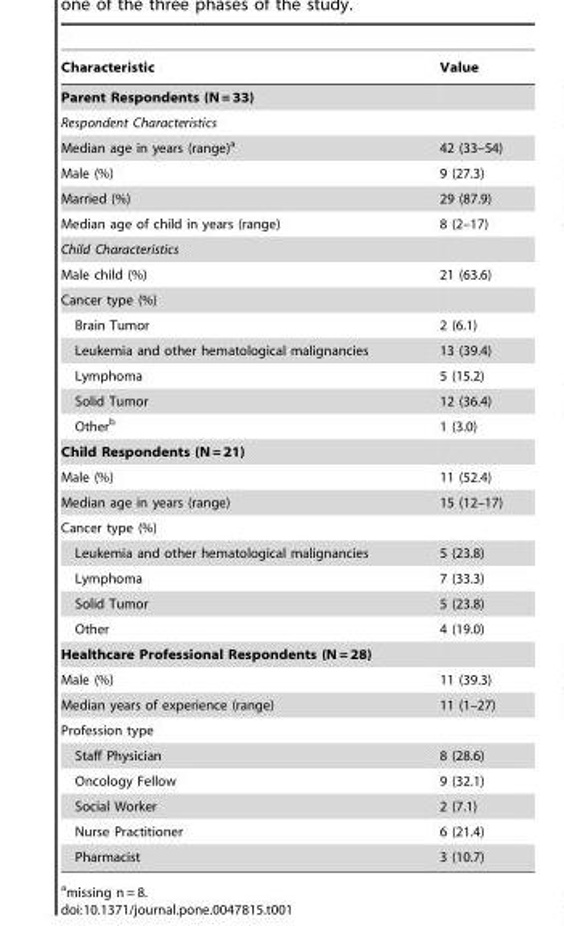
<table><thead><tr><td>Characteristic</td><td>Value</td></tr></thead><tbody><tr><td colspan="2">Parent Respondents (N = 33)</td></tr><tr><td colspan="2">Respondent Characteristics</td></tr><tr><td>Median age in years (range)<sup>a</sup></td><td>42 (33–54)</td></tr><tr><td>Male (%)</td><td>9 (27.3)</td></tr><tr><td>Married (%)</td><td>29 (87.9)</td></tr><tr><td>Median age of child in years (range)</td><td>8 (2–17)</td></tr><tr><td colspan="2">Child Characteristics</td></tr><tr><td>Male child (%)</td><td>21 (63.6)</td></tr><tr><td colspan="2">Cancer type (%)</td></tr><tr><td>Brain Tumor</td><td>2 (6.1)</td></tr><tr><td>Leukemia and other hematological malignancies</td><td>13 (39.4)</td></tr><tr><td>Lymphoma</td><td>5 (15.2)</td></tr><tr><td>Solid Tumor</td><td>12 (36.4)</td></tr><tr><td>Other<sup>b</sup></td><td>1 (3.0)</td></tr><tr><td colspan="2">Child Respondents (N = 21)</td></tr><tr><td>Male (%)</td><td>11 (52.4)</td></tr><tr><td>Median age in years (range)</td><td>15 (12–17)</td></tr><tr><td colspan="2">Cancer type (%)</td></tr><tr><td>Leukemia and other hematological malignancies</td><td>5 (23.8)</td></tr><tr><td>Lymphoma</td><td>7 (33.3)</td></tr><tr><td>Solid Tumor</td><td>5 (23.8)</td></tr><tr><td>Other</td><td>4 (19.0)</td></tr><tr><td colspan="2">Healthcare Professional Respondents (N = 28)</td></tr><tr><td>Male (%)</td><td>11 (39.3)</td></tr><tr><td>Median years of experience (range)</td><td>11 (1–27)</td></tr><tr><td colspan="2">Profession type</td></tr><tr><td>Staff Physician</td><td>8 (28.6)</td></tr><tr><td>Oncology Fellow</td><td>9 (32.1)</td></tr><tr><td>Social Worker</td><td>2 (7.1)</td></tr><tr><td>Nurse Practitioner</td><td>6 (21.4)</td></tr><tr><td>Pharmacist</td><td>3 (10.7)</td></tr></tbody></table>